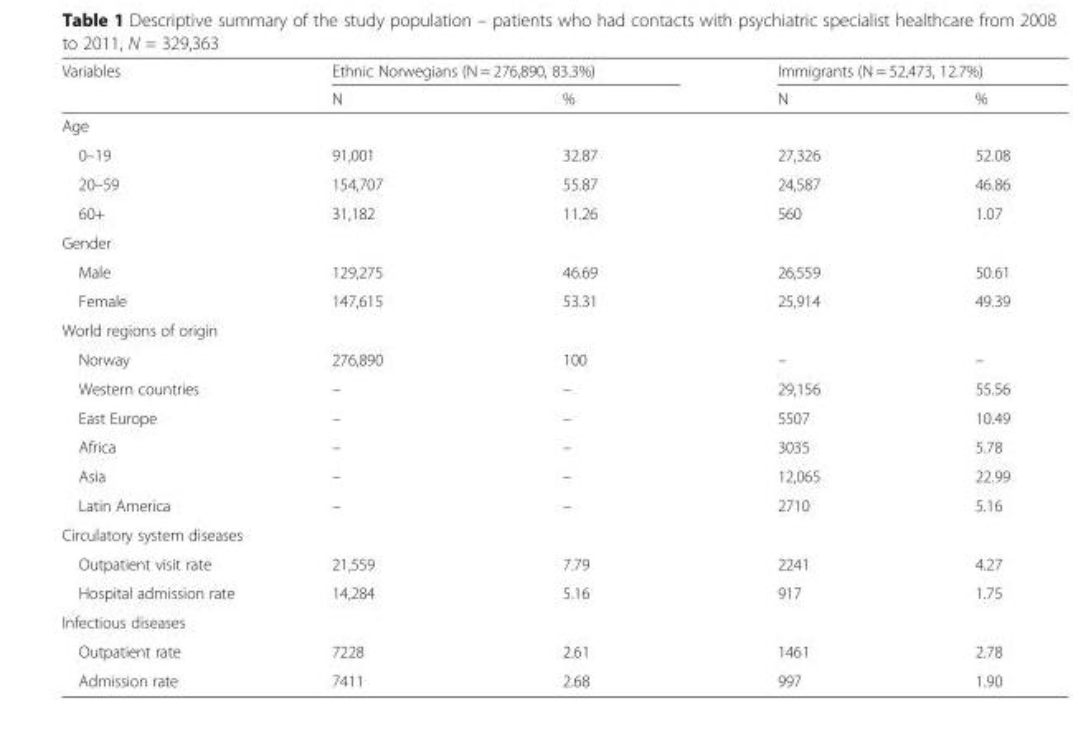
<table><thead><tr><td rowspan="2">Variables</td><td colspan="2">Ethnic Norwegians (N = 276,890, 83.3%)</td><td colspan="2">Immigrants (N = 52,473, 12.7%)</td></tr><tr><td>N</td><td>%</td><td>N</td><td>%</td></tr></thead><tbody><tr><td colspan="5">Age</td></tr><tr><td>0–19</td><td>91,001</td><td>32.87</td><td>27,326</td><td>52.08</td></tr><tr><td>20–59</td><td>154,707</td><td>55.87</td><td>24,587</td><td>46.86</td></tr><tr><td>60+</td><td>31,182</td><td>11.26</td><td>560</td><td>1.07</td></tr><tr><td colspan="5">Gender</td></tr><tr><td>Male</td><td>129,275</td><td>46.69</td><td>26,559</td><td>50.61</td></tr><tr><td>Female</td><td>147,615</td><td>53.31</td><td>25,914</td><td>49.39</td></tr><tr><td colspan="5">World regions of origin</td></tr><tr><td>Norway</td><td>276,890</td><td>100</td><td>–</td><td>–</td></tr><tr><td>Western countries</td><td>–</td><td>–</td><td>29,156</td><td>55.56</td></tr><tr><td>East Europe</td><td>–</td><td>–</td><td>5507</td><td>10.49</td></tr><tr><td>Africa</td><td>–</td><td>–</td><td>3035</td><td>5.78</td></tr><tr><td>Asia</td><td>–</td><td>–</td><td>12,065</td><td>22.99</td></tr><tr><td>Latin America</td><td>–</td><td>–</td><td>2710</td><td>5.16</td></tr><tr><td colspan="5">Circulatory system diseases</td></tr><tr><td>Outpatient visit rate</td><td>21,559</td><td>7.79</td><td>2241</td><td>4.27</td></tr><tr><td>Hospital admission rate</td><td>14,284</td><td>5.16</td><td>917</td><td>1.75</td></tr><tr><td colspan="5">Infectious diseases</td></tr><tr><td>Outpatient rate</td><td>7228</td><td>2.61</td><td>1461</td><td>2.78</td></tr><tr><td>Admission rate</td><td>7411</td><td>2.68</td><td>997</td><td>1.90</td></tr></tbody></table>